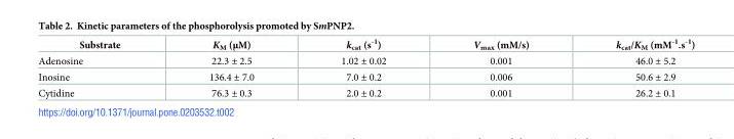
<table><thead><tr><td>Substrate</td><td>K<sub>M</sub> (μM)</td><td>k<sub>cat</sub> (s<sup>-1</sup>)</td><td>V<sub>max</sub> (mM/s)</td><td>k<sub>cat</sub>/K<sub>M</sub> (mM<sup>-1</sup>.s<sup>-1</sup>)</td></tr></thead><tbody><tr><td>Adenosine</td><td>22.3 ± 2.5</td><td>1.02 ± 0.02</td><td>0.001</td><td>46.0 ± 5.2</td></tr><tr><td>Inosine</td><td>136.4 ± 7.0</td><td>7.0 ± 0.2</td><td>0.006</td><td>50.6 ± 2.9</td></tr><tr><td>Cytidine</td><td>76.3 ± 0.3</td><td>2.0 ± 0.2</td><td>0.001</td><td>26.2 ± 0.1</td></tr></tbody></table>